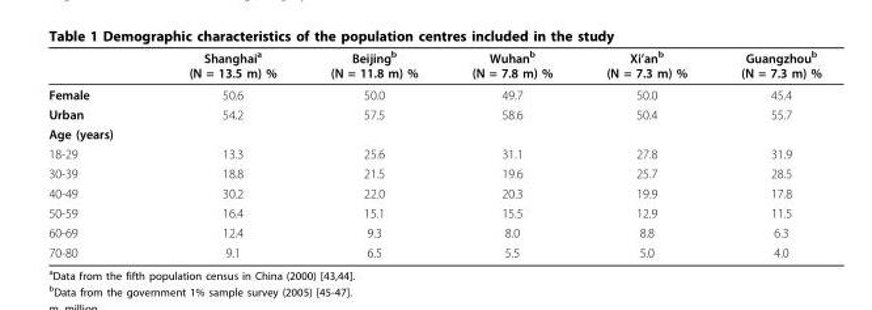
<table><thead><tr><td></td><td>Shanghai<sup>a</sup> (N = 13.5 m) %</td><td>Beijing<sup>b</sup> (N = 11.8 m) %</td><td>Wuhan<sup>b</sup> (N = 7.8 m) %</td><td>Xi’an<sup>b</sup> (N = 7.3 m) %</td><td>Guangzhou<sup>b</sup> (N = 7.3 m) %</td></tr></thead><tbody><tr><td>Female</td><td>50.6</td><td>50.0</td><td>49.7</td><td>50.0</td><td>45.4</td></tr><tr><td>Urban</td><td>54.2</td><td>57.5</td><td>58.6</td><td>50.4</td><td>55.7</td></tr><tr><td colspan="6">Age (years)</td></tr><tr><td>18-29</td><td>13.3</td><td>25.6</td><td>31.1</td><td>27.8</td><td>31.9</td></tr><tr><td>30-39</td><td>18.8</td><td>21.5</td><td>19.6</td><td>25.7</td><td>28.5</td></tr><tr><td>40-49</td><td>30.2</td><td>22.0</td><td>20.3</td><td>19.9</td><td>17.8</td></tr><tr><td>50-59</td><td>16.4</td><td>15.1</td><td>15.5</td><td>12.9</td><td>11.5</td></tr><tr><td>60-69</td><td>12.4</td><td>9.3</td><td>8.0</td><td>8.8</td><td>6.3</td></tr><tr><td>70-80</td><td>9.1</td><td>6.5</td><td>5.5</td><td>5.0</td><td>4.0</td></tr></tbody></table>